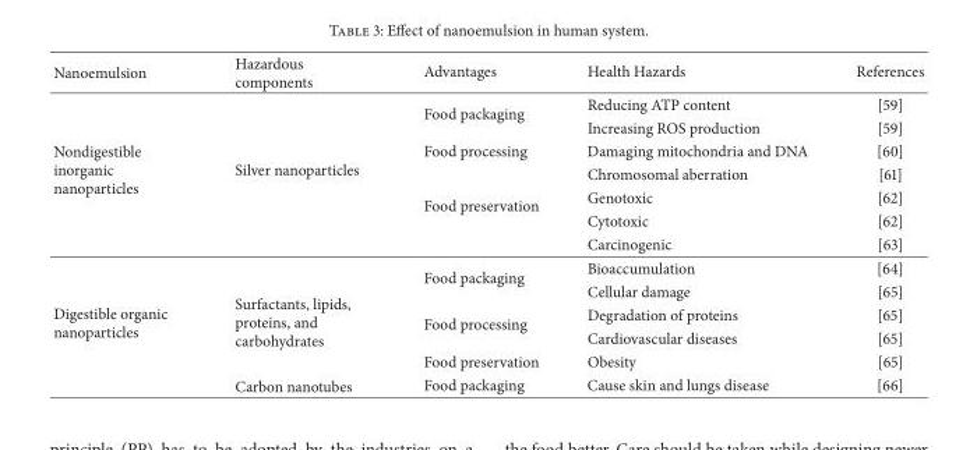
<table><thead><tr><td>Nanoemulsion</td><td>Hazardous components</td><td>Advantages</td><td>Health Hazards</td><td>References</td></tr></thead><tbody><tr><td rowspan="7">Nondigestible inorganic nanoparticles</td><td rowspan="7">Silver nanoparticles</td><td rowspan="2">Food packaging</td><td>Reducing ATP content</td><td>[59]</td></tr><tr><td>Increasing ROS production</td><td>[59]</td></tr><tr><td>Food processing</td><td>Damaging mitochondria and DNA</td><td>[60]</td></tr><tr><td rowspan="4">Food preservation</td><td>Chromosomal aberration</td><td>[61]</td></tr><tr><td>Genotoxic</td><td>[62]</td></tr><tr><td>Cytotoxic</td><td>[62]</td></tr><tr><td>Carcinogenic</td><td>[63]</td></tr><tr><td rowspan="6">Digestible organic nanoparticles</td><td rowspan="5">Surfactants, lipids, proteins, and carbohydrates</td><td rowspan="2">Food packaging</td><td>Bioaccumulation</td><td>[64]</td></tr><tr><td>Cellular damage</td><td>[65]</td></tr><tr><td rowspan="2">Food processing</td><td>Degradation of proteins</td><td>[65]</td></tr><tr><td>Cardiovascular diseases</td><td>[65]</td></tr><tr><td>Food preservation</td><td>Obesity</td><td>[65]</td></tr><tr><td>Carbon nanotubes</td><td>Food packaging</td><td>Cause skin and lungs disease</td><td>[66]</td></tr></tbody></table>